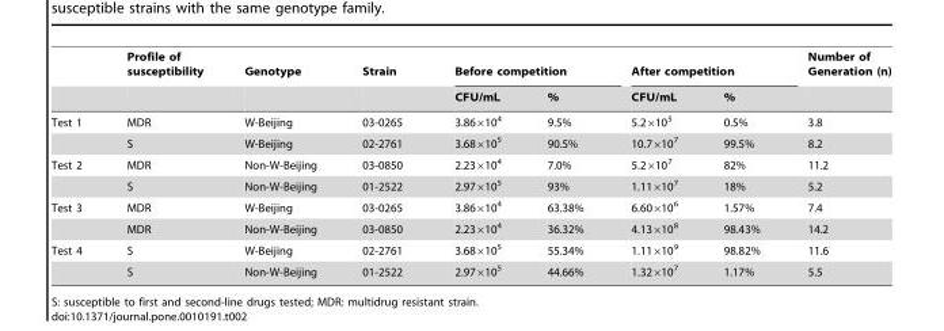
<table><thead><tr><td rowspan="2"></td><td rowspan="2">Profile of susceptibility</td><td rowspan="2">Genotype</td><td rowspan="2">Strain</td><td colspan="2">Before competition</td><td colspan="2">After competition</td><td rowspan="2">Number of Generation (n)</td></tr><tr><td>CFU/mL</td><td>%</td><td>CFU/mL</td><td>%</td></tr></thead><tbody><tr><td rowspan="2">Test 1</td><td>MDR</td><td>W-Beijing</td><td>03-0265</td><td>3.86×10<sup>4</sup></td><td>9.5%</td><td>5.2×10<sup>5</sup></td><td>0.5%</td><td>3.8</td></tr><tr><td>S</td><td>W-Beijing</td><td>02-2761</td><td>3.68×10<sup>5</sup></td><td>90.5%</td><td>10.7×10<sup>7</sup></td><td>99.5%</td><td>8.2</td></tr><tr><td rowspan="2">Test 2</td><td>MDR</td><td>Non-W-Beijing</td><td>03-0850</td><td>2.23×10<sup>4</sup></td><td>7.0%</td><td>5.2×10<sup>7</sup></td><td>82%</td><td>11.2</td></tr><tr><td>S</td><td>Non-W-Beijing</td><td>01-2522</td><td>2.97×10<sup>5</sup></td><td>93%</td><td>1.11×10<sup>7</sup></td><td>18%</td><td>5.2</td></tr><tr><td rowspan="2">Test 3</td><td>MDR</td><td>W-Beijing</td><td>03-0265</td><td>3.86×10<sup>4</sup></td><td>63.38%</td><td>6.60×10<sup>6</sup></td><td>1.57%</td><td>7.4</td></tr><tr><td>MDR</td><td>Non-W-Beijing</td><td>03-0850</td><td>2.23×10<sup>4</sup></td><td>36.32%</td><td>4.13×10<sup>8</sup></td><td>98.43%</td><td>14.2</td></tr><tr><td rowspan="2">Test 4</td><td>S</td><td>W-Beijing</td><td>02-2761</td><td>3.68×10<sup>5</sup></td><td>55.34%</td><td>1.11×10<sup>9</sup></td><td>98.82%</td><td>11.6</td></tr><tr><td>S</td><td>Non-W-Beijing</td><td>01-2522</td><td>2.97×10<sup>5</sup></td><td>44.66%</td><td>1.32×10<sup>7</sup></td><td>1.17%</td><td>5.5</td></tr></tbody></table>